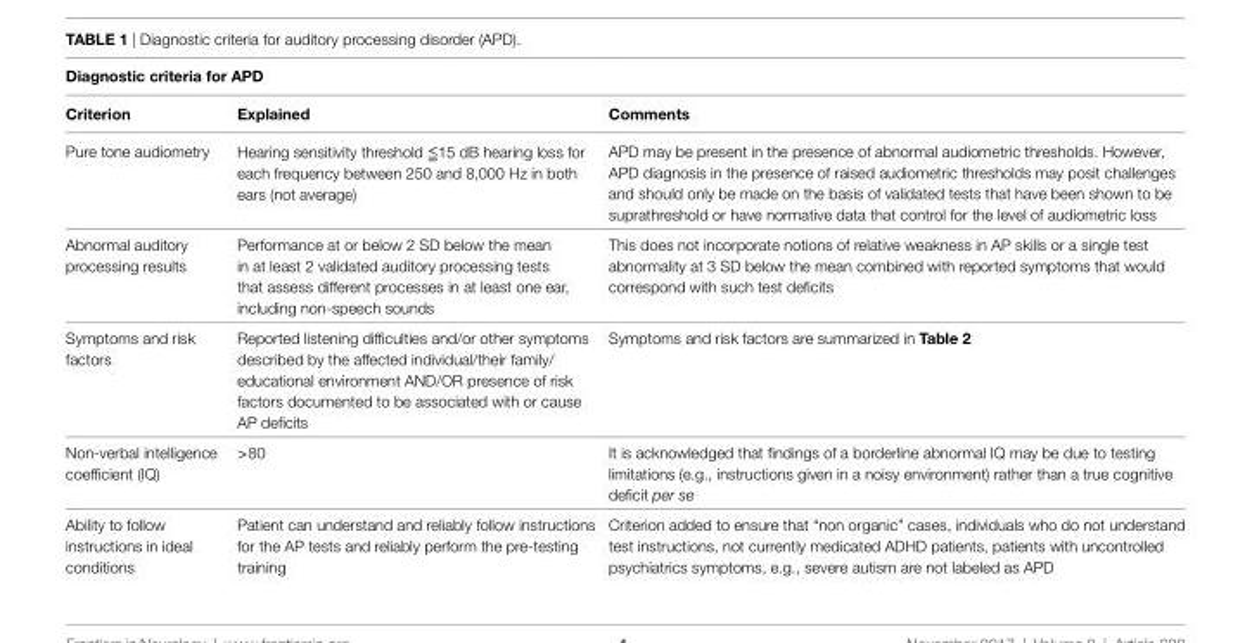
<table><thead><tr><td colspan="3">Diagnostic criteria for APD</td></tr><tr><td>criterion</td><td>explained</td><td>comments</td></tr></thead><tbody><tr><td>Pure tone audiometry</td><td>Hearing sensitivity threshold ≦15 dB hearing loss for each frequency between 250 and 8,000 Hz in both ears (not average)</td><td>APD may be present in the presence of abnormal audiometric thresholds. However, APD diagnosis in the presence of raised audiometric thresholds may posit challenges and should only be made on the basis of validated tests that have been shown to be suprathreshold or have normative data that control for the level of audiometric loss</td></tr><tr><td>Abnormal auditory processing results</td><td>Performance at or below 2 SD below the mean in at least 2 validated auditory processing tests that assess different processes in at least one ear, including non-speech sounds</td><td>This does not incorporate notions of relative weakness in AP skills or a single test abnormality at 3 SD below the mean combined with reported symptoms that would correspond with such test deficits</td></tr><tr><td>Symptoms and risk factors</td><td>Reported listening difficulties and/or other symptoms described by the affected individual/their family/ educational environment AND/OR presence of risk factors documented to be associated with or cause AP deficits</td><td>Symptoms and risk factors are summarized in table 2</td></tr><tr><td>Non-verbal intelligence coefficient (IQ)</td><td>&gt;80</td><td>It is acknowledged that findings of a borderline abnormal IQ may be due to testing limitations (e.g., instructions given in a noisy environment) rather than a true cognitive deficit per se</td></tr><tr><td>Ability to follow instructions in ideal conditions</td><td>Patient can understand and reliably follow instructions for the AP tests and reliably perform the pre-testing training</td><td>Criterion added to ensure that “non organic” cases, individuals who do not understand test instructions, not currently medicated ADHD patients, patients with uncontrolled psychiatrics symptoms, e.g., severe autism are not labeled as APD</td></tr></tbody></table>